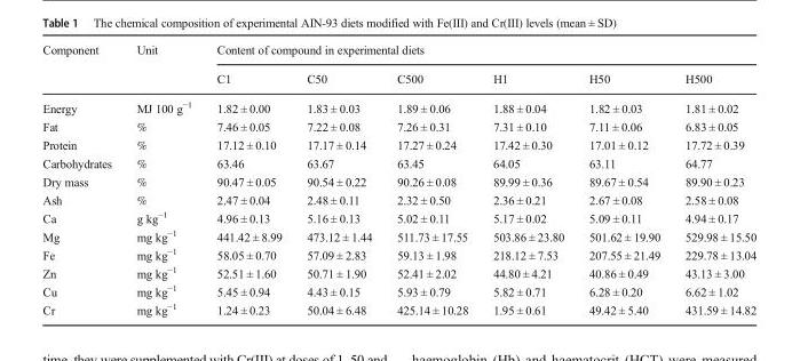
<table><thead><tr><td rowspan="2">Component</td><td rowspan="2">Unit</td><td colspan="6">Content of compound in experimental diets</td></tr><tr><td>C1</td><td>C50</td><td>C500</td><td>H1</td><td>H50</td><td>H500</td></tr></thead><tbody><tr><td>Energy</td><td>MJ 100 g<sup>−1</sup></td><td>1.82 ± 0.00</td><td>1.83 ± 0.03</td><td>1.89 ± 0.06</td><td>1.88 ± 0.04</td><td>1.82 ± 0.03</td><td>1.81 ± 0.02</td></tr><tr><td>Fat</td><td>%</td><td>7.46 ± 0.05</td><td>7.22 ± 0.08</td><td>7.26 ± 0.31</td><td>7.31 ± 0.10</td><td>7.11 ± 0.06</td><td>6.83 ± 0.05</td></tr><tr><td>Protein</td><td>%</td><td>17.12 ± 0.10</td><td>17.17 ± 0.14</td><td>17.27 ± 0.24</td><td>17.42 ± 0.30</td><td>17.01 ± 0.12</td><td>17.72 ± 0.39</td></tr><tr><td>Carbohydrates</td><td>%</td><td>63.46</td><td>63.67</td><td>63.45</td><td>64.05</td><td>63.11</td><td>64.77</td></tr><tr><td>Dry mass</td><td>%</td><td>90.47 ± 0.05</td><td>90.54 ± 0.22</td><td>90.26 ± 0.08</td><td>89.99 ± 0.36</td><td>89.67 ± 0.54</td><td>89.90 ± 0.23</td></tr><tr><td>Ash</td><td>%</td><td>2.47 ± 0.04</td><td>2.48 ± 0.11</td><td>2.32 ± 0.50</td><td>2.36 ± 0.21</td><td>2.67 ± 0.08</td><td>2.58 ± 0.08</td></tr><tr><td>Ca</td><td>g kg<sup>−1</sup></td><td>4.96 ± 0.13</td><td>5.16 ± 0.13</td><td>5.02 ± 0.11</td><td>5.17 ± 0.02</td><td>5.09 ± 0.11</td><td>4.94 ± 0.17</td></tr><tr><td>Mg</td><td>mg kg<sup>−1</sup></td><td>441.42 ± 8.99</td><td>473.12 ± 1.44</td><td>511.73 ± 17.55</td><td>503.86 ± 23.80</td><td>501.62 ± 19.90</td><td>529.98 ± 15.50</td></tr><tr><td>Fe</td><td>mg kg<sup>−1</sup></td><td>58.05 ± 0.70</td><td>57.09 ± 2.83</td><td>59.13 ± 1.98</td><td>218.12 ± 7.53</td><td>207.55 ± 21.49</td><td>229.78 ± 13.04</td></tr><tr><td>Zn</td><td>mg kg<sup>−1</sup></td><td>52.51 ± 1.60</td><td>50.71 ± 1.90</td><td>52.41 ± 2.02</td><td>44.80 ± 4.21</td><td>40.86 ± 0.49</td><td>43.13 ± 3.00</td></tr><tr><td>Cu</td><td>mg kg<sup>−1</sup></td><td>5.45 ± 0.94</td><td>4.43 ± 0.15</td><td>5.93 ± 0.79</td><td>5.82 ± 0.71</td><td>6.28 ± 0.20</td><td>6.62 ± 1.02</td></tr><tr><td>Cr</td><td>mg kg<sup>−1</sup></td><td>1.24 ± 0.23</td><td>50.04 ± 6.48</td><td>425.14 ± 10.28</td><td>1.95 ± 0.61</td><td>49.42 ± 5.40</td><td>431.59 ± 14.82</td></tr></tbody></table>